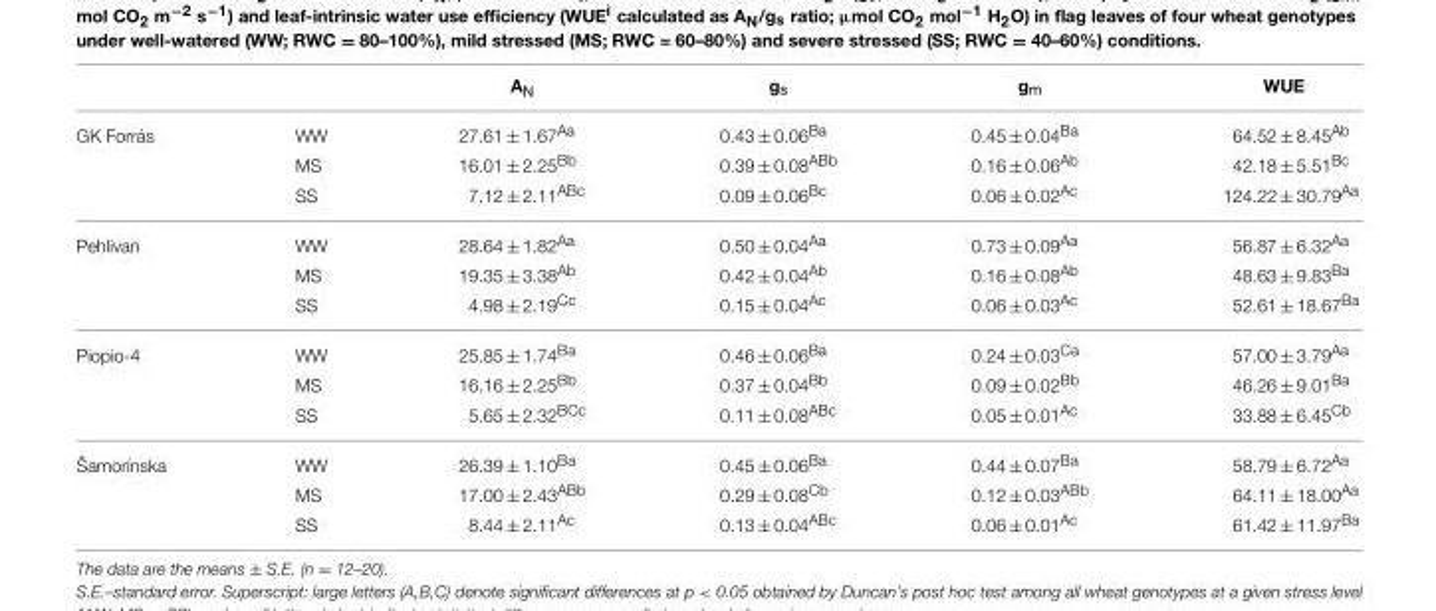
<table><thead><tr><td></td><td></td><td>A<sub>N</sub></td><td>g<sub>s</sub></td><td>g<sub>m</sub></td><td>WUE</td></tr></thead><tbody><tr><td rowspan="3">GK Forrás</td><td>WW</td><td>27.61 ± 1.67<sup>Aa</sup></td><td>0.43 ± 0.06<sup>Ba</sup></td><td>0.45 ± 0.04<sup>Ba</sup></td><td>64.52 ± 8.45<sup>Ab</sup></td></tr><tr><td>MS</td><td>16.01 ± 2.25<sup>Bb</sup></td><td>0.39 ± 0.08<sup>ABb</sup></td><td>0.16 ± 0.06<sup>Ab</sup></td><td>42.18 ± 5.51<sup>Bc</sup></td></tr><tr><td>SS</td><td>7.12 ± 2.11<sup>ABc</sup></td><td>0.09 ± 0.06<sup>Bc</sup></td><td>0.06 ± 0.02<sup>Ac</sup></td><td>124.22 ± 30.79<sup>Aa</sup></td></tr><tr><td rowspan="3">Pehlivan</td><td>WW</td><td>28.64 ± 1.82<sup>Aa</sup></td><td>0.50 ± 0.04<sup>Aa</sup></td><td>0.73 ± 0.09<sup>Aa</sup></td><td>56.87 ± 6.32<sup>Aa</sup></td></tr><tr><td>MS</td><td>19.35 ± 3.38<sup>Ab</sup></td><td>0.42 ± 0.04<sup>Ab</sup></td><td>0.16 ± 0.08<sup>Ab</sup></td><td>48.63 ± 9.83<sup>Ba</sup></td></tr><tr><td>SS</td><td>4.98 ± 2.19<sup>Cc</sup></td><td>0.15 ± 0.04<sup>Ac</sup></td><td>0.06 ± 0.03<sup>Ac</sup></td><td>52.61 ± 18.67<sup>Ba</sup></td></tr><tr><td rowspan="3">Piopio-4</td><td>WW</td><td>25.85 ± 1.74<sup>Ba</sup></td><td>0.46 ± 0.06<sup>Ba</sup></td><td>0.24 ± 0.03<sup>Ca</sup></td><td>57.00 ± 3.79<sup>Aa</sup></td></tr><tr><td>MS</td><td>16.16 ± 2.25<sup>Bb</sup></td><td>0.37 ± 0.04<sup>Bb</sup></td><td>0.09 ± 0.02<sup>Bb</sup></td><td>46.26 ± 9.01<sup>Ba</sup></td></tr><tr><td>SS</td><td>5.65 ± 2.32<sup>BCc</sup></td><td>0.11 ± 0.08<sup>ABc</sup></td><td>0.05 ± 0.01<sup>Ac</sup></td><td>33.88 ± 6.45<sup>Cb</sup></td></tr><tr><td rowspan="3">Šamorínska</td><td>WW</td><td>26.39 ± 1.10<sup>Ba</sup></td><td>0.45 ± 0.06<sup>Ba</sup></td><td>0.44 ± 0.07<sup>Ba</sup></td><td>58.79 ± 6.72<sup>Aa</sup></td></tr><tr><td>MS</td><td>17.00 ± 2.43<sup>ABb</sup></td><td>0.29 ± 0.08<sup>Cb</sup></td><td>0.12 ± 0.03<sup>ABb</sup></td><td>64.11 ± 18.00<sup>Aa</sup></td></tr><tr><td>SS</td><td>8.44 ± 2.11<sup>Ac</sup></td><td>0.13 ± 0.04<sup>ABc</sup></td><td>0.06 ± 0.01<sup>Ac</sup></td><td>61.42 ± 11.97<sup>Ba</sup></td></tr></tbody></table>